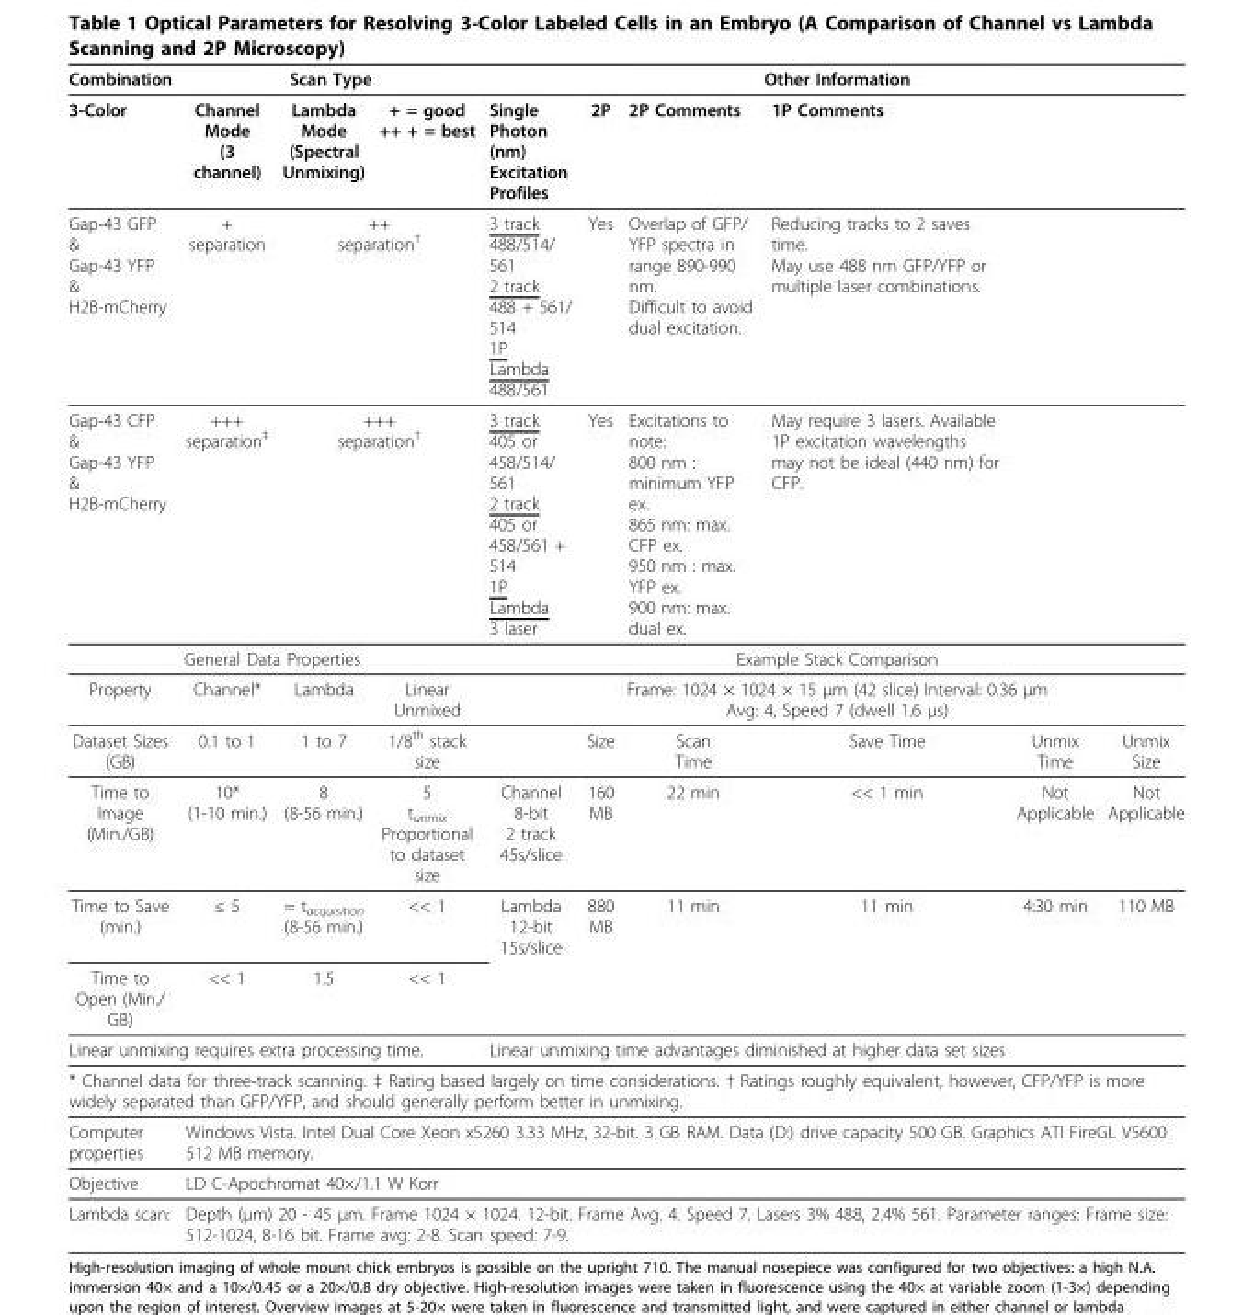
<table><thead><tr><td rowspan="2">Combination 3-Color</td><td colspan="3">Scan Type</td><td colspan="6">Other Information</td></tr><tr><td>Channel Mode (3 channel)</td><td>Lambda Mode (Spectral Unmixing)</td><td>+ = good ++ + = best</td><td>Single Photon (nm) Excitation Profiles</td><td>2P</td><td>2P Comments</td><td>1P Comments</td><td></td><td></td></tr></thead><tbody><tr><td>Gap-43 GFP &amp; Gap-43 YFP &amp; H2B-mCherry</td><td>+ separation</td><td colspan="2">++ separation<sup>†</sup></td><td>3 track 488/514/ 561 2 track 488 + 561/ 514 1P Lambda 488/561</td><td>Yes</td><td>Overlap of GFP/ YFP spectra in range 890-990 nm. Difficult to avoid dual excitation.</td><td>Reducing tracks to 2 saves time. May use 488 nm GFP/YFP or multiple laser combinations.</td><td></td><td></td></tr><tr><td>Gap-43 CFP &amp; Gap-43 YFP &amp; H2B-mCherry</td><td>+++ separation<sup>‡</sup></td><td colspan="2">+++ separation<sup>†</sup></td><td>3 track 405 or 458/514/ 561 2 track 405 or 458/561 + 514 1P Lambda 3 laser</td><td>Yes</td><td>Excitations to note: 800 nm : minimum YFP ex. 865 nm: max. CFP ex. 950 nm : max. YFP ex. 900 nm: max. dual ex.</td><td>May require 3 lasers. Available 1P excitation wavelengths may not be ideal (440 nm) for CFP.</td><td></td><td></td></tr><tr><td colspan="4">General Data Properties</td><td colspan="6">Example Stack Comparison</td></tr><tr><td>Property</td><td>Channel*</td><td>Lambda</td><td>Linear Unmixed</td><td colspan="6">Frame: 1024 × 1024 × 15 μm (42 slice) Interval: 0.36 μm Avg: 4, Speed 7 (dwell 1.6 μs)</td></tr><tr><td>Dataset Sizes (GB)</td><td>0.1 to 1</td><td>1 to 7</td><td>1/8<sup>th</sup> stack size</td><td></td><td>Size</td><td>Scan Time</td><td>Save Time</td><td>Unmix Time</td><td>Unmix Size</td></tr><tr><td>Time to Image (Min./GB)</td><td>10* (1-10 min.)</td><td>8 (8-56 min.)</td><td>5 t<sub>unmix</sub> Proportional to dataset size</td><td>Channel 8-bit 2 track 45s/slice</td><td>160 MB</td><td>22 min</td><td>&lt;&lt; 1 min</td><td>Not Applicable</td><td>Not Applicable</td></tr><tr><td>Time to Save (min.)</td><td>≤ 5</td><td>≈ t<sub>acquisition</sub> (8-56 min.)</td><td>&lt;&lt; 1</td><td>Lambda 12-bit 15s/slice</td><td>880 MB</td><td>11 min</td><td>11 min</td><td>4:30 min</td><td>110 MB</td></tr><tr><td>Time to Open (Min./ GB)</td><td>&lt;&lt; 1</td><td>1.5</td><td>&lt;&lt; 1</td><td></td><td></td><td></td><td></td><td></td><td></td></tr><tr><td colspan="4">Linear unmixing requires extra processing time.</td><td colspan="6">Linear unmixing time advantages diminished at higher data set sizes</td></tr><tr><td colspan="10">* Channel data for three-track scanning. ‡ Rating based largely on time considerations. † Ratings roughly equivalent, however, CFP/YFP is more widely separated than GFP/YFP, and should generally perform better in unmixing.</td></tr><tr><td>Computer properties</td><td colspan="9">Windows Vista. Intel Dual Core Xeon x5260 3.33 MHz, 32-bit. 3 GB RAM. Data (D:) drive capacity 500 GB. Graphics ATI FireGL V5600 512 MB memory.</td></tr><tr><td>Objective</td><td colspan="9">LD C-Apochromat 40×/1.1 W Korr</td></tr><tr><td>Lambda scan:</td><td colspan="9">Depth (μm) 20 - 45 μm. Frame 1024 × 1024. 12-bit. Frame Avg. 4. Speed 7. Lasers 3% 488, 2.4% 561. Parameter ranges: Frame size: 512-1024, 8-16 bit. Frame avg: 2-8. Scan speed: 7-9.</td></tr></tbody></table>